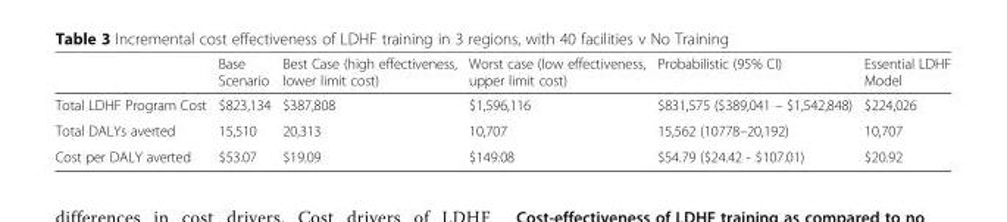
<table><thead><tr><td></td><td>Base Scenario</td><td>Best Case (high effectiveness, lower limit cost)</td><td>Worst case (low effectiveness, upper limit cost)</td><td>Probabilistic (95% CI)</td><td>Essential LDHF Model</td></tr></thead><tbody><tr><td>Total LDHF Program Cost</td><td>$823,134</td><td>$387,808</td><td>$1,596,116</td><td>$831,575 ($389,041 – $1,542,848)</td><td>$224,026</td></tr><tr><td>Total DALYs averted</td><td>15,510</td><td>20,313</td><td>10,707</td><td>15,562 (10778–20,192)</td><td>10,707</td></tr><tr><td>Cost per DALY averted</td><td>$53.07</td><td>$19.09</td><td>$149.08</td><td>$54.79 ($24.42 - $107.01)</td><td>$20.92</td></tr></tbody></table>